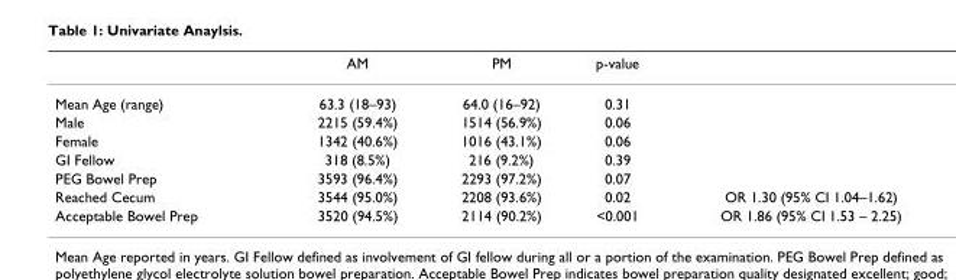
<table><thead><tr><td></td><td>AM</td><td>PM</td><td>p-value</td><td></td></tr></thead><tbody><tr><td>Mean Age (range)</td><td>63.3 (18–93)</td><td>64.0 (16–92)</td><td>0.31</td><td></td></tr><tr><td>Male</td><td>2215 (59.4%)</td><td>1514 (56.9%)</td><td>0.06</td><td></td></tr><tr><td>Female</td><td>1342 (40.6%)</td><td>1016 (43.1%)</td><td>0.06</td><td></td></tr><tr><td>GI Fellow</td><td>318 (8.5%)</td><td>216 (9.2%)</td><td>0.39</td><td></td></tr><tr><td>PEG Bowel Prep</td><td>3593 (96.4%)</td><td>2293 (97.2%)</td><td>0.07</td><td></td></tr><tr><td>Reached Cecum</td><td>3544 (95.0%)</td><td>2208 (93.6%)</td><td>0.02</td><td>OR 1.30 (95% CI 1.04–1.62)</td></tr><tr><td>Acceptable Bowel Prep</td><td>3520 (94.5%)</td><td>2114 (90.2%)</td><td>&lt;0.001</td><td>OR 1.86 (95% CI 1.53 – 2.25)</td></tr></tbody></table>